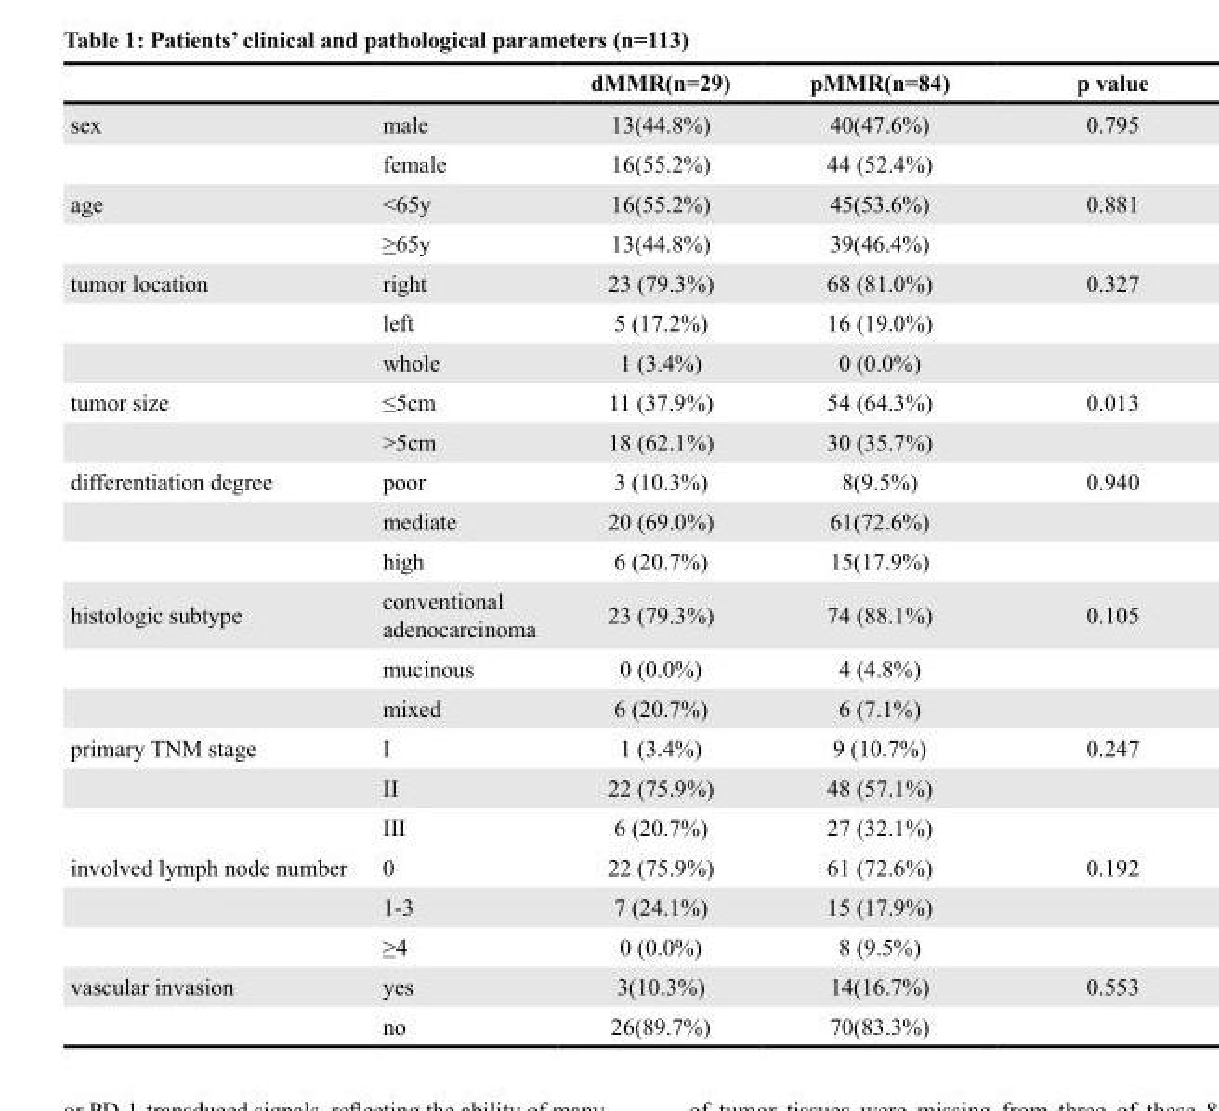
<table><thead><tr><td></td><td></td><td>dMMR(n=29)</td><td>pMMR(n=84)</td><td>p value</td></tr></thead><tbody><tr><td rowspan="2">sex</td><td>male</td><td>13(44.8%)</td><td>40(47.6%)</td><td>0.795</td></tr><tr><td>female</td><td>16(55.2%)</td><td>44 (52.4%)</td><td></td></tr><tr><td rowspan="2">age</td><td>&lt;65y</td><td>16(55.2%)</td><td>45(53.6%)</td><td>0.881</td></tr><tr><td>≥65y</td><td>13(44.8%)</td><td>39(46.4%)</td><td></td></tr><tr><td rowspan="3">tumor location</td><td>right</td><td>23 (79.3%)</td><td>68 (81.0%)</td><td>0.327</td></tr><tr><td>left</td><td>5 (17.2%)</td><td>16 (19.0%)</td><td></td></tr><tr><td>whole</td><td>1 (3.4%)</td><td>0 (0.0%)</td><td></td></tr><tr><td rowspan="2">tumor size</td><td>≤5cm</td><td>11 (37.9%)</td><td>54 (64.3%)</td><td>0.013</td></tr><tr><td>&gt;5cm</td><td>18 (62.1%)</td><td>30 (35.7%)</td><td></td></tr><tr><td rowspan="3">differentiation degree</td><td>poor</td><td>3 (10.3%)</td><td>8(9.5%)</td><td>0.940</td></tr><tr><td>mediate</td><td>20 (69.0%)</td><td>61(72.6%)</td><td></td></tr><tr><td>high</td><td>6 (20.7%)</td><td>15(17.9%)</td><td></td></tr><tr><td rowspan="3">histologic subtype</td><td>conventional adenocarcinoma</td><td>23 (79.3%)</td><td>74 (88.1%)</td><td>0.105</td></tr><tr><td>mucinous</td><td>0 (0.0%)</td><td>4 (4.8%)</td><td></td></tr><tr><td>mixed</td><td>6 (20.7%)</td><td>6 (7.1%)</td><td></td></tr><tr><td rowspan="3">primary TNM stage</td><td>I</td><td>1 (3.4%)</td><td>9 (10.7%)</td><td>0.247</td></tr><tr><td>II</td><td>22 (75.9%)</td><td>48 (57.1%)</td><td></td></tr><tr><td>III</td><td>6 (20.7%)</td><td>27 (32.1%)</td><td></td></tr><tr><td rowspan="3">involved lymph node number</td><td>0</td><td>22 (75.9%)</td><td>61 (72.6%)</td><td>0.192</td></tr><tr><td>1-3</td><td>7 (24.1%)</td><td>15 (17.9%)</td><td></td></tr><tr><td>≥4</td><td>0 (0.0%)</td><td>8 (9.5%)</td><td></td></tr><tr><td rowspan="2">vascular invasion</td><td>yes</td><td>3(10.3%)</td><td>14(16.7%)</td><td>0.553</td></tr><tr><td>no</td><td>26(89.7%)</td><td>70(83.3%)</td><td></td></tr></tbody></table>